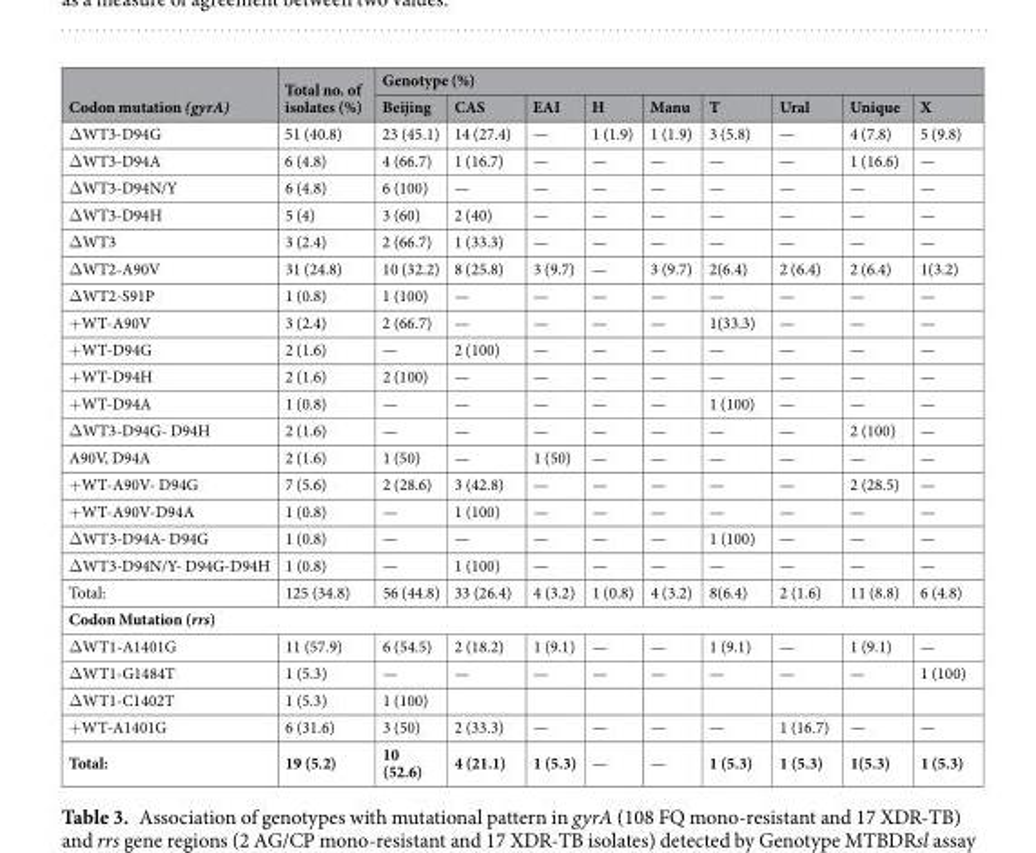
<table><thead><tr><td rowspan="2">Codon mutation (gyrA)</td><td rowspan="2">Total no. of isolates (%)</td><td colspan="9">Genotype (%)</td></tr><tr><td>Beijing</td><td>CAS</td><td>EAI</td><td>H</td><td>Manu</td><td>T</td><td>Ural</td><td>Unique</td><td>X</td></tr></thead><tbody><tr><td>ΔWT3-D94G</td><td>51 (40.8)</td><td>23 (45.1)</td><td>14 (27.4)</td><td>—</td><td>1 (1.9)</td><td>1 (1.9)</td><td>3 (5.8)</td><td>—</td><td>4 (7.8)</td><td>5 (9.8)</td></tr><tr><td>ΔWT3-D94A</td><td>6 (4.8)</td><td>4 (66.7)</td><td>1 (16.7)</td><td>—</td><td>—</td><td>—</td><td>—</td><td>—</td><td>1 (16.6)</td><td>—</td></tr><tr><td>ΔWT3-D94N/Y</td><td>6 (4.8)</td><td>6 (100)</td><td>—</td><td>—</td><td>—</td><td>—</td><td>—</td><td>—</td><td>—</td><td>—</td></tr><tr><td>ΔWT3-D94H</td><td>5 (4)</td><td>3 (60)</td><td>2 (40)</td><td>—</td><td>—</td><td>—</td><td>—</td><td>—</td><td>—</td><td>—</td></tr><tr><td>ΔWT3</td><td>3 (2.4)</td><td>2 (66.7)</td><td>1 (33.3)</td><td>—</td><td>—</td><td>—</td><td>—</td><td>—</td><td>—</td><td>—</td></tr><tr><td>ΔWT2-A90V</td><td>31 (24.8)</td><td>10 (32.2)</td><td>8 (25.8)</td><td>3 (9.7)</td><td>—</td><td>3 (9.7)</td><td>2(6.4)</td><td>2 (6.4)</td><td>2 (6.4)</td><td>1(3.2)</td></tr><tr><td>ΔWT2-S91P</td><td>1 (0.8)</td><td>1 (100)</td><td>—</td><td>—</td><td>—</td><td>—</td><td>—</td><td>—</td><td>—</td><td>—</td></tr><tr><td>+WT-A90V</td><td>3 (2.4)</td><td>2 (66.7)</td><td>—</td><td>—</td><td>—</td><td>—</td><td>1(33.3)</td><td>—</td><td>—</td><td>—</td></tr><tr><td>+WT-D94G</td><td>2 (1.6)</td><td>—</td><td>2 (100)</td><td>—</td><td>—</td><td>—</td><td>—</td><td>—</td><td>—</td><td>—</td></tr><tr><td>+WT-D94H</td><td>2 (1.6)</td><td>2 (100)</td><td>—</td><td>—</td><td>—</td><td>—</td><td>—</td><td>—</td><td>—</td><td>—</td></tr><tr><td>+WT-D94A</td><td>1 (0.8)</td><td>—</td><td>—</td><td>—</td><td>—</td><td>—</td><td>1 (100)</td><td>—</td><td>—</td><td>—</td></tr><tr><td>ΔWT3-D94G- D94H</td><td>2 (1.6)</td><td>—</td><td>—</td><td>—</td><td>—</td><td>—</td><td>—</td><td>—</td><td>2 (100)</td><td>—</td></tr><tr><td>A90V, D94A</td><td>2 (1.6)</td><td>1 (50)</td><td>—</td><td>1 (50)</td><td>—</td><td>—</td><td>—</td><td>—</td><td>—</td><td>—</td></tr><tr><td>+WT-A90V- D94G</td><td>7 (5.6)</td><td>2 (28.6)</td><td>3 (42.8)</td><td>—</td><td>—</td><td>—</td><td>—</td><td>—</td><td>2 (28.5)</td><td>—</td></tr><tr><td>+WT-A90V-D94A</td><td>1 (0.8)</td><td>—</td><td>1 (100)</td><td>—</td><td>—</td><td>—</td><td>—</td><td>—</td><td>—</td><td>—</td></tr><tr><td>ΔWT3-D94A- D94G</td><td>1 (0.8)</td><td>—</td><td>—</td><td>—</td><td>—</td><td>—</td><td>1 (100)</td><td>—</td><td>—</td><td>—</td></tr><tr><td>ΔWT3-D94N/Y- D94G-D94H</td><td>1 (0.8)</td><td>—</td><td>1 (100)</td><td>—</td><td>—</td><td>—</td><td>—</td><td>—</td><td>—</td><td>—</td></tr><tr><td>Total:</td><td>125 (34.8)</td><td>56 (44.8)</td><td>33 (26.4)</td><td>4 (3.2)</td><td>1 (0.8)</td><td>4 (3.2)</td><td>8(6.4)</td><td>2 (1.6)</td><td>11 (8.8)</td><td>6 (4.8)</td></tr><tr><td colspan="11">Codon Mutation (rrs)</td></tr><tr><td>ΔWT1-A1401G</td><td>11 (57.9)</td><td>6 (54.5)</td><td>2 (18.2)</td><td>1 (9.1)</td><td>—</td><td>—</td><td>1 (9.1)</td><td>—</td><td>1 (9.1)</td><td>—</td></tr><tr><td>ΔWT1-G1484T</td><td>1 (5.3)</td><td>—</td><td>—</td><td>—</td><td>—</td><td>—</td><td>—</td><td>—</td><td>—</td><td>1 (100)</td></tr><tr><td>ΔWT1-C1402T</td><td>1 (5.3)</td><td>1 (100)</td><td></td><td></td><td></td><td></td><td></td><td></td><td></td><td></td></tr><tr><td>+WT-A1401G</td><td>6 (31.6)</td><td>3 (50)</td><td>2 (33.3)</td><td>—</td><td>—</td><td>—</td><td>—</td><td>1 (16.7)</td><td>—</td><td>—</td></tr><tr><td>Total:</td><td>19 (5.2)</td><td>10 (52.6)</td><td>4 (21.1)</td><td>1 (5.3)</td><td>—</td><td>—</td><td>1 (5.3)</td><td>1 (5.3)</td><td>1(5.3)</td><td>1 (5.3)</td></tr></tbody></table>